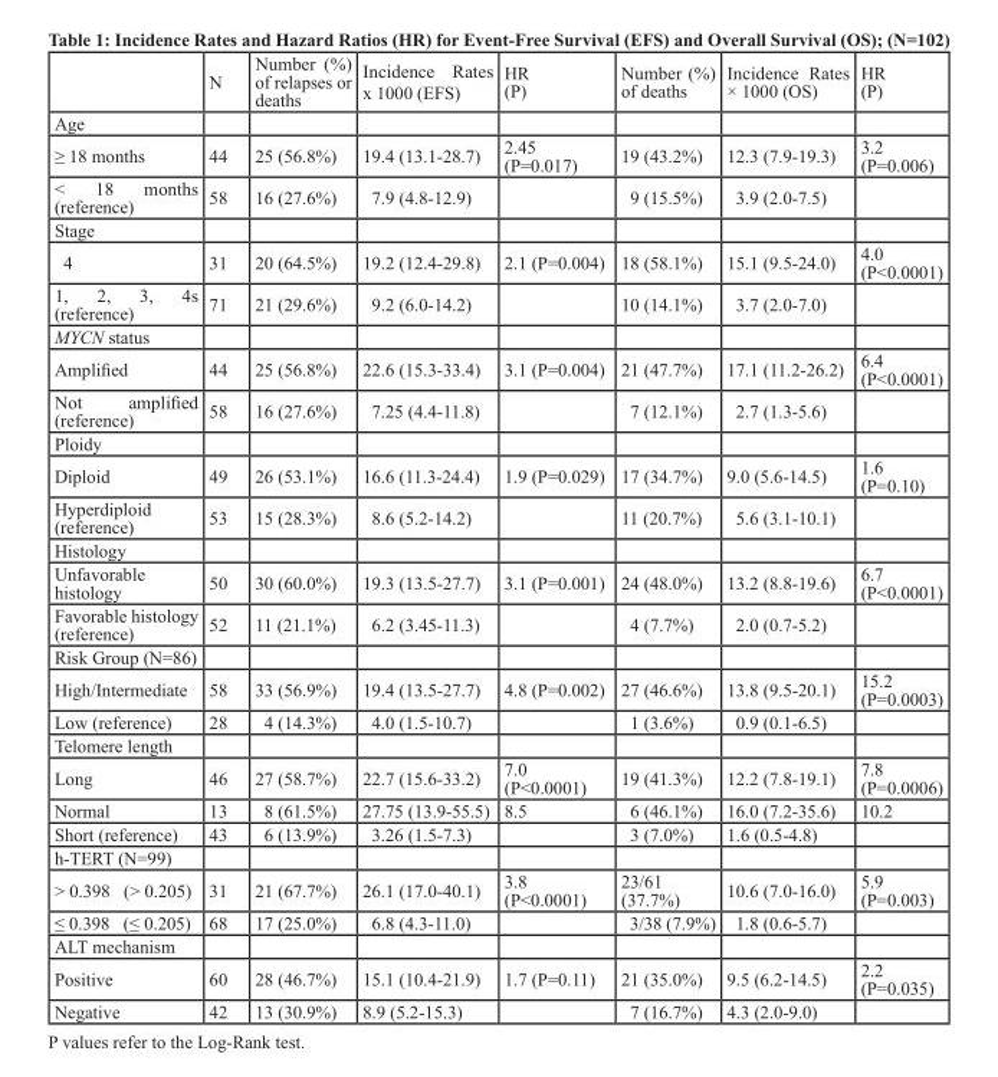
<table><thead><tr><td></td><td>N</td><td>Number (%) of relapses or deaths</td><td>Incidence Rates x 1000 (EFS)</td><td>HR (P)</td><td>Number (%) of deaths</td><td>Incidence Rates × 1000 (OS)</td><td>HR (P)</td></tr></thead><tbody><tr><td colspan="8">Age</td></tr><tr><td>≥ 18 months</td><td>44</td><td>25 (56.8%)</td><td>19.4 (13.1-28.7)</td><td>2.45 (P=0.017)</td><td>19 (43.2%)</td><td>12.3 (7.9-19.3)</td><td>3.2 (P=0.006)</td></tr><tr><td>&lt; 18 months (reference)</td><td>58</td><td>16 (27.6%)</td><td>7.9 (4.8-12.9)</td><td></td><td>9 (15.5%)</td><td>3.9 (2.0-7.5)</td><td></td></tr><tr><td colspan="8">Stage</td></tr><tr><td>4</td><td>31</td><td>20 (64.5%)</td><td>19.2 (12.4-29.8)</td><td>2.1 (P=0.004)</td><td>18 (58.1%)</td><td>15.1 (9.5-24.0)</td><td>4.0 (P&lt;0.0001)</td></tr><tr><td>1, 2, 3, 4s (reference)</td><td>71</td><td>21 (29.6%)</td><td>9.2 (6.0-14.2)</td><td></td><td>10 (14.1%)</td><td>3.7 (2.0-7.0)</td><td></td></tr><tr><td colspan="8">MYCN status</td></tr><tr><td>Amplified</td><td>44</td><td>25 (56.8%)</td><td>22.6 (15.3-33.4)</td><td>3.1 (P=0.004)</td><td>21 (47.7%)</td><td>17.1 (11.2-26.2)</td><td>6.4 (P&lt;0.0001)</td></tr><tr><td>Not amplified (reference)</td><td>58</td><td>16 (27.6%)</td><td>7.25 (4.4-11.8)</td><td></td><td>7 (12.1%)</td><td>2.7 (1.3-5.6)</td><td></td></tr><tr><td colspan="8">Ploidy</td></tr><tr><td>Diploid</td><td>49</td><td>26 (53.1%)</td><td>16.6 (11.3-24.4)</td><td>1.9 (P=0.029)</td><td>17 (34.7%)</td><td>9.0 (5.6-14.5)</td><td>1.6 (P=0.10)</td></tr><tr><td>Hyperdiploid (reference)</td><td>53</td><td>15 (28.3%)</td><td>8.6 (5.2-14.2)</td><td></td><td>11 (20.7%)</td><td>5.6 (3.1-10.1)</td><td></td></tr><tr><td colspan="8">Histology</td></tr><tr><td>Unfavorable histology</td><td>50</td><td>30 (60.0%)</td><td>19.3 (13.5-27.7)</td><td>3.1 (P=0.001)</td><td>24 (48.0%)</td><td>13.2 (8.8-19.6)</td><td>6.7 (P&lt;0.0001)</td></tr><tr><td>Favorable histology (reference)</td><td>52</td><td>11 (21.1%)</td><td>6.2 (3.45-11.3)</td><td></td><td>4 (7.7%)</td><td>2.0 (0.7-5.2)</td><td></td></tr><tr><td colspan="8">Risk Group (N=86)</td></tr><tr><td>High/Intermediate</td><td>58</td><td>33 (56.9%)</td><td>19.4 (13.5-27.7)</td><td>4.8 (P=0.002)</td><td>27 (46.6%)</td><td>13.8 (9.5-20.1)</td><td>15.2 (P=0.0003)</td></tr><tr><td>Low (reference)</td><td>28</td><td>4 (14.3%)</td><td>4.0 (1.5-10.7)</td><td></td><td>1 (3.6%)</td><td>0.9 (0.1-6.5)</td><td></td></tr><tr><td colspan="8">Telomere length</td></tr><tr><td>Long</td><td>46</td><td>27 (58.7%)</td><td>22.7 (15.6-33.2)</td><td>7.0 (P&lt;0.0001)</td><td>19 (41.3%)</td><td>12.2 (7.8-19.1)</td><td>7.8 (P=0.0006)</td></tr><tr><td>Normal</td><td>13</td><td>8 (61.5%)</td><td>27.75 (13.9-55.5)</td><td>8.5</td><td>6 (46.1%)</td><td>16.0 (7.2-35.6)</td><td>10.2</td></tr><tr><td>Short (reference)</td><td>43</td><td>6 (13.9%)</td><td>3.26 (1.5-7.3)</td><td></td><td>3 (7.0%)</td><td>1.6 (0.5-4.8)</td><td></td></tr><tr><td colspan="8">h-TERT (N=99)</td></tr><tr><td>&gt; 0.398 (&gt; 0.205)</td><td>31</td><td>21 (67.7%)</td><td>26.1 (17.0-40.1)</td><td>3.8 (P&lt;0.0001)</td><td>23/61 (37.7%)</td><td>10.6 (7.0-16.0)</td><td>5.9 (P=0.003)</td></tr><tr><td>≤ 0.398 (≤ 0.205)</td><td>68</td><td>17 (25.0%)</td><td>6.8 (4.3-11.0)</td><td></td><td>3/38 (7.9%)</td><td>1.8 (0.6-5.7)</td><td></td></tr><tr><td colspan="8">ALT mechanism</td></tr><tr><td>Positive</td><td>60</td><td>28 (46.7%)</td><td>15.1 (10.4-21.9)</td><td>1.7 (P=0.11)</td><td>21 (35.0%)</td><td>9.5 (6.2-14.5)</td><td>2.2 (P=0.035)</td></tr><tr><td>Negative</td><td>42</td><td>13 (30.9%)</td><td>8.9 (5.2-15.3)</td><td></td><td>7 (16.7%)</td><td>4.3 (2.0-9.0)</td><td></td></tr></tbody></table>